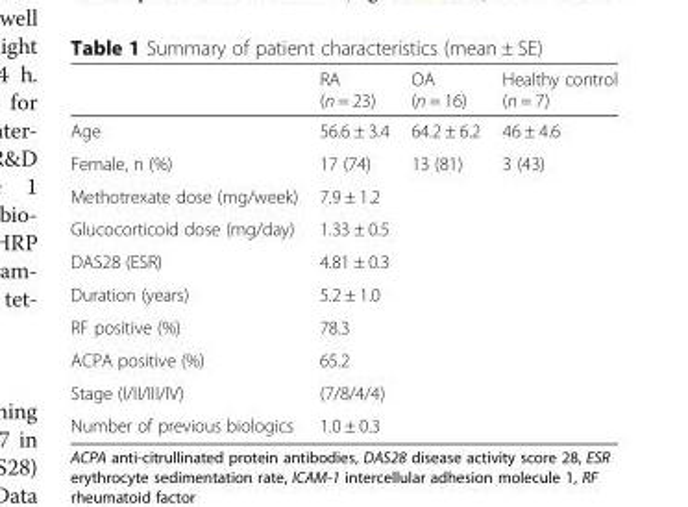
<table><thead><tr><td></td><td>RA (n = 23)</td><td>OA (n = 16)</td><td>Healthy control (n = 7)</td></tr></thead><tbody><tr><td>Age</td><td>56.6 ± 3.4</td><td>64.2 ± 6.2</td><td>46 ± 4.6</td></tr><tr><td>Female, n (%)</td><td>17 (74)</td><td>13 (81)</td><td>3 (43)</td></tr><tr><td>Methotrexate dose (mg/week)</td><td>7.9 ± 1.2</td><td></td><td></td></tr><tr><td>Glucocorticoid dose (mg/day)</td><td>1.33 ± 0.5</td><td></td><td></td></tr><tr><td>DAS28 (ESR)</td><td>4.81 ± 0.3</td><td></td><td></td></tr><tr><td>Duration (years)</td><td>5.2 ± 1.0</td><td></td><td></td></tr><tr><td>RF positive (%)</td><td>78.3</td><td></td><td></td></tr><tr><td>ACPA positive (%)</td><td>65.2</td><td></td><td></td></tr><tr><td>Stage (I/II/III/IV)</td><td>(7/8/4/4)</td><td></td><td></td></tr><tr><td>Number of previous biologics</td><td>1.0 ± 0.3</td><td></td><td></td></tr></tbody></table>